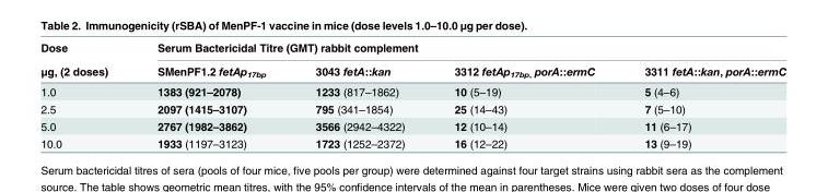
<table><thead><tr><td rowspan="2">Dose μg, (2 doses)</td><td colspan="4">Serum Bactericidal Titre (GMT) rabbit complement</td></tr><tr><td>SMenPF1.2 fetAp<sub>17bp</sub></td><td>3043 fetA::kan</td><td>3312 fetAp<sub>17bp,</sub> porA::ermC</td><td>3311 fetA::kan, porA::ermC</td></tr></thead><tbody><tr><td>1.0</td><td>1383 (921–2078)</td><td>1233 (817–1862)</td><td>10 (5–19)</td><td>5 (4–6)</td></tr><tr><td>2.5</td><td>2097 (1415–3107)</td><td>795 (341–1854)</td><td>25 (14–43)</td><td>7 (5–10)</td></tr><tr><td>5.0</td><td>2767 (1982–3862)</td><td>3566 (2942–4322)</td><td>12 (10–14)</td><td>11 (6–17)</td></tr><tr><td>10.0</td><td>1933 (1197–3123)</td><td>1723 (1252–2372)</td><td>16 (12–22)</td><td>13 (9–19)</td></tr></tbody></table>